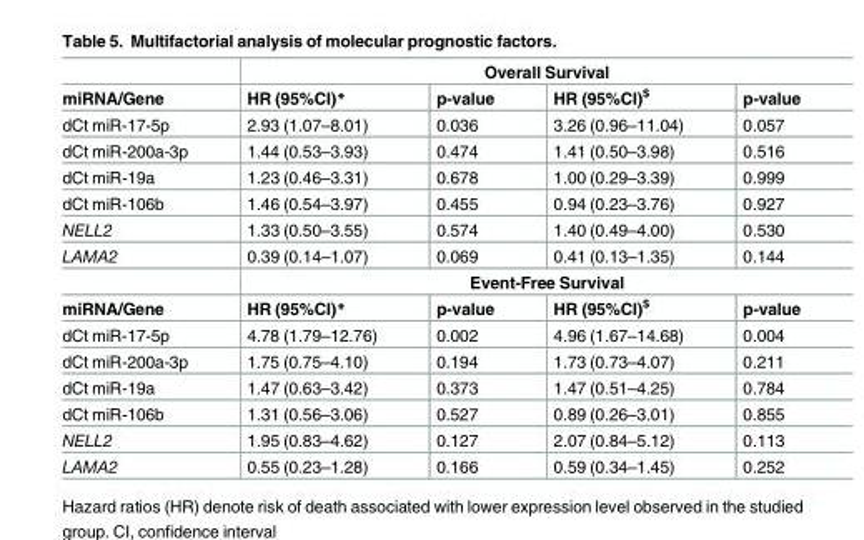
<table><thead><tr><td rowspan="2">miRNA/Gene</td><td colspan="4">Overall Survival</td></tr><tr><td>HR (95%CI)*</td><td>p-value</td><td>HR (95%CI)<sup>$</sup></td><td>p-value</td></tr></thead><tbody><tr><td>dCt miR-17-5p</td><td>2.93 (1.07–8.01)</td><td>0.036</td><td>3.26 (0.96–11.04)</td><td>0.057</td></tr><tr><td>dCt miR-200a-3p</td><td>1.44 (0.53–3.93)</td><td>0.474</td><td>1.41 (0.50–3.98)</td><td>0.516</td></tr><tr><td>dCt miR-19a</td><td>1.23 (0.46–3.31)</td><td>0.678</td><td>1.00 (0.29–3.39)</td><td>0.999</td></tr><tr><td>dCt miR-106b</td><td>1.46 (0.54–3.97)</td><td>0.455</td><td>0.94 (0.23–3.76)</td><td>0.927</td></tr><tr><td>NELL2</td><td>1.33 (0.50–3.55)</td><td>0.574</td><td>1.40 (0.49–4.00)</td><td>0.530</td></tr><tr><td rowspan="2">LAMA2</td><td>0.39 (0.14–1.07)</td><td>0.069</td><td>0.41 (0.13–1.35)</td><td>0.144</td></tr><tr><td colspan="4">Event-Free Survival</td></tr><tr><td>miRNA/Gene</td><td>HR (95%CI)*</td><td>p-value</td><td>HR (95%CI)<sup>$</sup></td><td>p-value</td></tr><tr><td>dCt miR-17-5p</td><td>4.78 (1.79–12.76)</td><td>0.002</td><td>4.96 (1.67–14.68)</td><td>0.004</td></tr><tr><td>dCt miR-200a-3p</td><td>1.75 (0.75–4.10)</td><td>0.194</td><td>1.73 (0.73–4.07)</td><td>0.211</td></tr><tr><td>dCt miR-19a</td><td>1.47 (0.63–3.42)</td><td>0.373</td><td>1.47 (0.51–4.25)</td><td>0.784</td></tr><tr><td>dCt miR-106b</td><td>1.31 (0.56–3.06)</td><td>0.527</td><td>0.89 (0.26–3.01)</td><td>0.855</td></tr><tr><td>NELL2</td><td>1.95 (0.83–4.62)</td><td>0.127</td><td>2.07 (0.84–5.12)</td><td>0.113</td></tr><tr><td>LAMA2</td><td>0.55 (0.23–1.28)</td><td>0.166</td><td>0.59 (0.34–1.45)</td><td>0.252</td></tr></tbody></table>